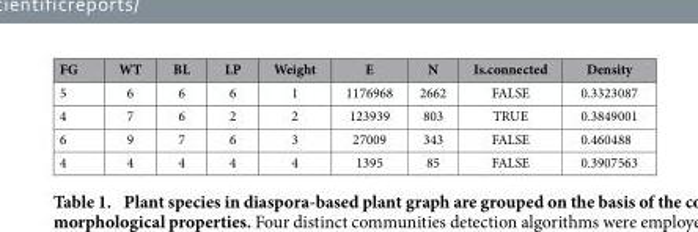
<table><thead><tr><td>FG</td><td>WT</td><td>BL</td><td>LP</td><td>Weight</td><td>E</td><td>N</td><td>Is.connected</td><td>Density</td></tr></thead><tbody><tr><td>5</td><td>6</td><td>6</td><td>6</td><td>1</td><td>1176968</td><td>2662</td><td>FALSE</td><td>0.3323087</td></tr><tr><td>4</td><td>7</td><td>6</td><td>2</td><td>2</td><td>123939</td><td>803</td><td>TRUE</td><td>0.3849001</td></tr><tr><td>6</td><td>9</td><td>7</td><td>6</td><td>3</td><td>27009</td><td>343</td><td>FALSE</td><td>0.460488</td></tr><tr><td>4</td><td>4</td><td>4</td><td>4</td><td>4</td><td>1395</td><td>85</td><td>FALSE</td><td>0.3907563</td></tr></tbody></table>